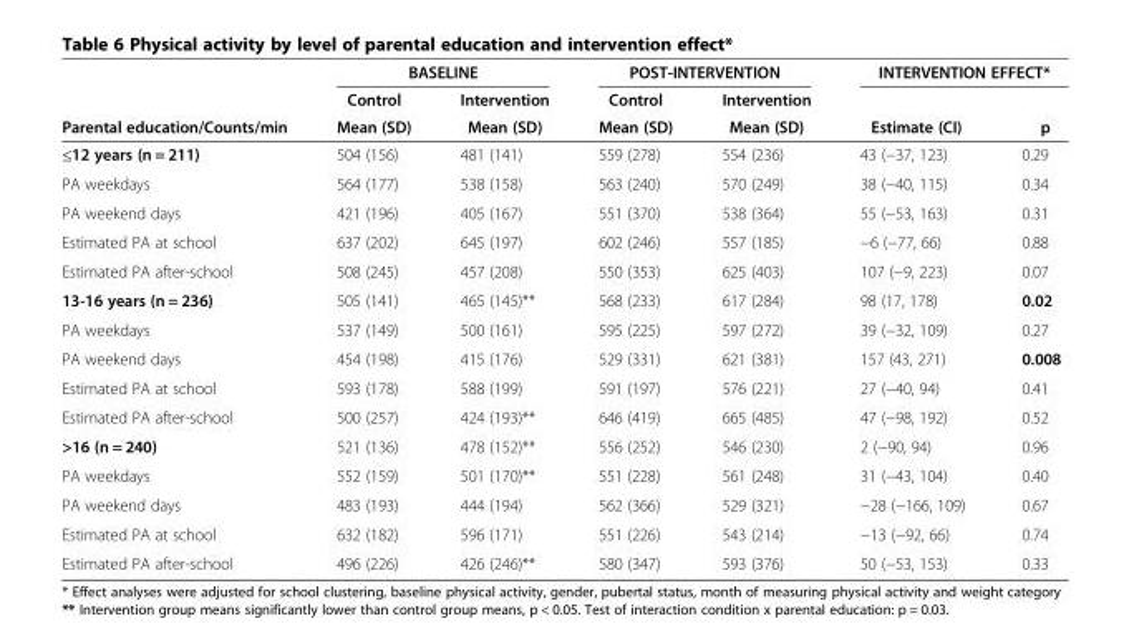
<table><thead><tr><td rowspan="3">Parental education/Counts/min</td><td colspan="2">BASELINE</td><td colspan="2">POST-INTERVENTION</td><td colspan="2">INTERVENTION EFFECT*</td></tr><tr><td rowspan="2">Control Mean (SD)</td><td rowspan="2">Intervention Mean (SD)</td><td rowspan="2">Control Mean (SD)</td><td rowspan="2">Intervention Mean (SD)</td><td rowspan="2">Estimate (CI)</td><td rowspan="2">p</td></tr><tr></tr></thead><tbody><tr><td>≤12 years (n = 211)</td><td>504 (156)</td><td>481 (141)</td><td>559 (278)</td><td>554 (236)</td><td>43 (−37, 123)</td><td>0.29</td></tr><tr><td>PA weekdays</td><td>564 (177)</td><td>538 (158)</td><td>563 (240)</td><td>570 (249)</td><td>38 (−40, 115)</td><td>0.34</td></tr><tr><td>PA weekend days</td><td>421 (196)</td><td>405 (167)</td><td>551 (370)</td><td>538 (364)</td><td>55 (−53, 163)</td><td>0.31</td></tr><tr><td>Estimated PA at school</td><td>637 (202)</td><td>645 (197)</td><td>602 (246)</td><td>557 (185)</td><td>−6 (−77, 66)</td><td>0.88</td></tr><tr><td>Estimated PA after-school</td><td>508 (245)</td><td>457 (208)</td><td>550 (353)</td><td>625 (403)</td><td>107 (−9, 223)</td><td>0.07</td></tr><tr><td>13-16 years (n = 236)</td><td>505 (141)</td><td>465 (145)**</td><td>568 (233)</td><td>617 (284)</td><td>98 (17, 178)</td><td>0.02</td></tr><tr><td>PA weekdays</td><td>537 (149)</td><td>500 (161)</td><td>595 (225)</td><td>597 (272)</td><td>39 (−32, 109)</td><td>0.27</td></tr><tr><td>PA weekend days</td><td>454 (198)</td><td>415 (176)</td><td>529 (331)</td><td>621 (381)</td><td>157 (43, 271)</td><td>0.008</td></tr><tr><td>Estimated PA at school</td><td>593 (178)</td><td>588 (199)</td><td>591 (197)</td><td>576 (221)</td><td>27 (−40, 94)</td><td>0.41</td></tr><tr><td>Estimated PA after-school</td><td>500 (257)</td><td>424 (193)**</td><td>646 (419)</td><td>665 (485)</td><td>47 (−98, 192)</td><td>0.52</td></tr><tr><td>&gt;16 (n = 240)</td><td>521 (136)</td><td>478 (152)**</td><td>556 (252)</td><td>546 (230)</td><td>2 (−90, 94)</td><td>0.96</td></tr><tr><td>PA weekdays</td><td>552 (159)</td><td>501 (170)**</td><td>551 (228)</td><td>561 (248)</td><td>31 (−43, 104)</td><td>0.40</td></tr><tr><td>PA weekend days</td><td>483 (193)</td><td>444 (194)</td><td>562 (366)</td><td>529 (321)</td><td>−28 (−166, 109)</td><td>0.67</td></tr><tr><td>Estimated PA at school</td><td>632 (182)</td><td>596 (171)</td><td>551 (226)</td><td>543 (214)</td><td>−13 (−92, 66)</td><td>0.74</td></tr><tr><td>Estimated PA after-school</td><td>496 (226)</td><td>426 (246)**</td><td>580 (347)</td><td>593 (376)</td><td>50 (−53, 153)</td><td>0.33</td></tr></tbody></table>